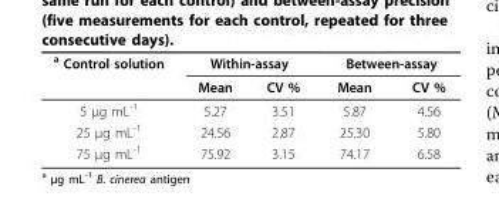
<table><thead><tr><td rowspan="2"><sup>a</sup> Control solution</td><td colspan="2">Within-assay</td><td colspan="2">Between-assay</td></tr><tr><td>Mean</td><td>CV %</td><td>Mean</td><td>CV %</td></tr></thead><tbody><tr><td>5 μg mL<sup>-1</sup></td><td>5.27</td><td>3.51</td><td>5.87</td><td>4.56</td></tr><tr><td>25 μg mL<sup>-1</sup></td><td>24.56</td><td>2.87</td><td>25.30</td><td>5.80</td></tr><tr><td>75 μg mL<sup>-1</sup></td><td>75.92</td><td>3.15</td><td>74.17</td><td>6.58</td></tr></tbody></table>